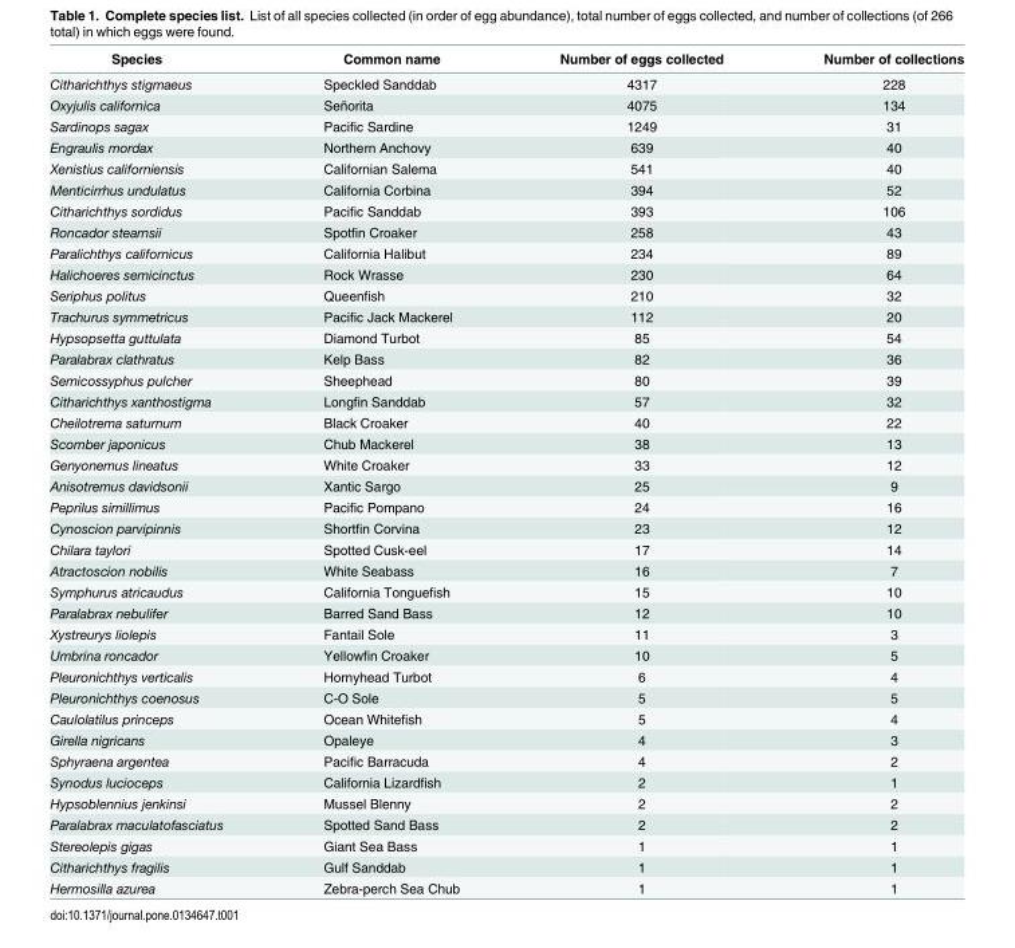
<table><thead><tr><td>Species</td><td>Common name</td><td>Number of eggs collected</td><td>Number of collections</td></tr></thead><tbody><tr><td>Citharichthys stigmaeus</td><td>Speckled Sanddab</td><td>4317</td><td>228</td></tr><tr><td>Oxyjulis californica</td><td>Señorita</td><td>4075</td><td>134</td></tr><tr><td>Sardinops sagax</td><td>Pacific Sardine</td><td>1249</td><td>31</td></tr><tr><td>Engraulis mordax</td><td>Northern Anchovy</td><td>639</td><td>40</td></tr><tr><td>Xenistius californiensis</td><td>Californian Salema</td><td>541</td><td>40</td></tr><tr><td>Menticirrhus undulatus</td><td>California Corbina</td><td>394</td><td>52</td></tr><tr><td>Citharichthys sordidus</td><td>Pacific Sanddab</td><td>393</td><td>106</td></tr><tr><td>Roncador stearnsii</td><td>Spotfin Croaker</td><td>258</td><td>43</td></tr><tr><td>Paralichthys californicus</td><td>California Halibut</td><td>234</td><td>89</td></tr><tr><td>Halichoeres semicinctus</td><td>Rock Wrasse</td><td>230</td><td>64</td></tr><tr><td>Seriphus politus</td><td>Queenfish</td><td>210</td><td>32</td></tr><tr><td>Trachurus symmetricus</td><td>Pacific Jack Mackerel</td><td>112</td><td>20</td></tr><tr><td>Hypsopsetta guttulata</td><td>Diamond Turbot</td><td>85</td><td>54</td></tr><tr><td>Paralabrax clathratus</td><td>Kelp Bass</td><td>82</td><td>36</td></tr><tr><td>Semicossyphus pulcher</td><td>Sheephead</td><td>80</td><td>39</td></tr><tr><td>Citharichthys xanthostigma</td><td>Longfin Sanddab</td><td>57</td><td>32</td></tr><tr><td>Cheilotrema saturnum</td><td>Black Croaker</td><td>40</td><td>22</td></tr><tr><td>Scomber japonicus</td><td>Chub Mackerel</td><td>38</td><td>13</td></tr><tr><td>Genyonemus lineatus</td><td>White Croaker</td><td>33</td><td>12</td></tr><tr><td>Anisotremus davidsonii</td><td>Xantic Sargo</td><td>25</td><td>9</td></tr><tr><td>Peprilus simillimus</td><td>Pacific Pompano</td><td>24</td><td>16</td></tr><tr><td>Cynoscion parvipinnis</td><td>Shortfin Corvina</td><td>23</td><td>12</td></tr><tr><td>Chilara taylori</td><td>Spotted Cusk-eel</td><td>17</td><td>14</td></tr><tr><td>Atractoscion nobilis</td><td>White Seabass</td><td>16</td><td>7</td></tr><tr><td>Symphurus atricaudus</td><td>California Tonguefish</td><td>15</td><td>10</td></tr><tr><td>Paralabrax nebulifer</td><td>Barred Sand Bass</td><td>12</td><td>10</td></tr><tr><td>Xystreurys liolepis</td><td>Fantail Sole</td><td>11</td><td>3</td></tr><tr><td>Umbrina roncador</td><td>Yellowfin Croaker</td><td>10</td><td>5</td></tr><tr><td>Pleuronichthys verticalis</td><td>Hornyhead Turbot</td><td>6</td><td>4</td></tr><tr><td>Pleuronichthys coenosus</td><td>C-O Sole</td><td>5</td><td>5</td></tr><tr><td>Caulolatilus princeps</td><td>Ocean Whitefish</td><td>5</td><td>4</td></tr><tr><td>Girella nigricans</td><td>Opaleye</td><td>4</td><td>3</td></tr><tr><td>Sphyraena argentea</td><td>Pacific Barracuda</td><td>4</td><td>2</td></tr><tr><td>Synodus lucioceps</td><td>California Lizardfish</td><td>2</td><td>1</td></tr><tr><td>Hypsoblennius jenkinsi</td><td>Mussel Blenny</td><td>2</td><td>2</td></tr><tr><td>Paralabrax maculatofasciatus</td><td>Spotted Sand Bass</td><td>2</td><td>2</td></tr><tr><td>Stereolepis gigas</td><td>Giant Sea Bass</td><td>1</td><td>1</td></tr><tr><td>Citharichthys fragilis</td><td>Gulf Sanddab</td><td>1</td><td>1</td></tr><tr><td>Hermosilla azurea</td><td>Zebra-perch Sea Chub</td><td>1</td><td>1</td></tr></tbody></table>